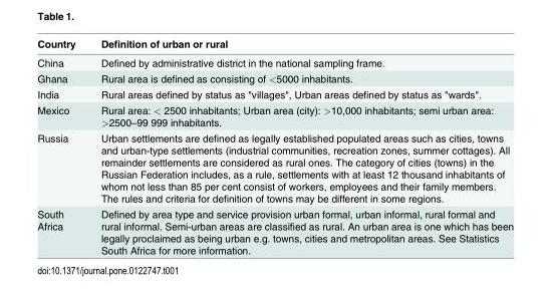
<table><thead><tr><td>Country</td><td>Definition of urban or rural</td></tr></thead><tbody><tr><td>China</td><td>Defined by administrative district in the national sampling frame.</td></tr><tr><td>Ghana</td><td>Rural area is defined as consisting of &lt;5000 inhabitants.</td></tr><tr><td>India</td><td>Rural areas defined by status as &quot;villages&quot;, Urban areas defined by status as &quot;wards&quot;.</td></tr><tr><td>Mexico</td><td>Rural area: &lt; 2500 inhabitants; Urban area (city): &gt;10,000 inhabitants; semi urban area: &gt;2500–99 999 inhabitants.</td></tr><tr><td>Russia</td><td>Urban settlements are defined as legally established populated areas such as cities, towns and urban-type settlements (industrial communities, recreation zones, summer cottages). All remainder settlements are considered as rural ones. The category of cities (towns) in the Russian Federation includes, as a rule, settlements with at least 12 thousand inhabitants of whom not less than 85 per cent consist of workers, employees and their family members. The rules and criteria for definition of towns may be different in some regions.</td></tr><tr><td>South Africa</td><td>Defined by area type and service provision urban formal, urban informal, rural formal and rural informal. Semi-urban areas are classified as rural. An urban area is one which has been legally proclaimed as being urban e.g. towns, cities and metropolitan areas. See Statistics South Africa for more information.</td></tr></tbody></table>